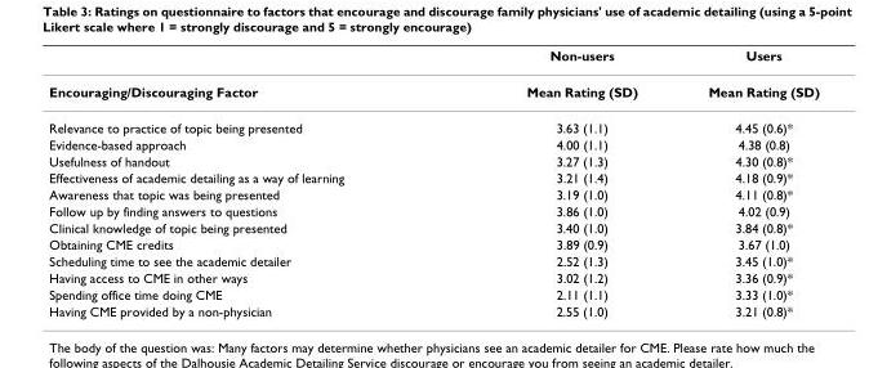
<table><thead><tr><td></td><td>Non-users</td><td>Users</td></tr></thead><tbody><tr><td>Encouraging/Discouraging Factor</td><td>Mean Rating (SD)</td><td>Mean Rating (SD)</td></tr><tr><td>Relevance to practice of topic being presented</td><td>3.63 (1.1)</td><td>4.45 (0.6)*</td></tr><tr><td>Evidence-based approach</td><td>4.00 (1.1)</td><td>4.38 (0.8)</td></tr><tr><td>Usefulness of handout</td><td>3.27 (1.3)</td><td>4.30 (0.8)*</td></tr><tr><td>Effectiveness of academic detailing as a way of learning</td><td>3.21 (1.4)</td><td>4.18 (0.9)*</td></tr><tr><td>Awareness that topic was being presented</td><td>3.19 (1.0)</td><td>4.11 (0.8)*</td></tr><tr><td>Follow up by finding answers to questions</td><td>3.86 (1.0)</td><td>4.02 (0.9)</td></tr><tr><td>Clinical knowledge of topic being presented</td><td>3.40 (1.0)</td><td>3.84 (0.8)*</td></tr><tr><td>Obtaining CME credits</td><td>3.89 (0.9)</td><td>3.67 (1.0)</td></tr><tr><td>Scheduling time to see the academic detailer</td><td>2.52 (1.3)</td><td>3.45 (1.0)*</td></tr><tr><td>Having access to CME in other ways</td><td>3.02 (1.2)</td><td>3.36 (0.9)*</td></tr><tr><td>Spending office time doing CME</td><td>2.11 (1.1)</td><td>3.33 (1.0)*</td></tr><tr><td>Having CME provided by a non-physician</td><td>2.55 (1.0)</td><td>3.21 (0.8)*</td></tr></tbody></table>